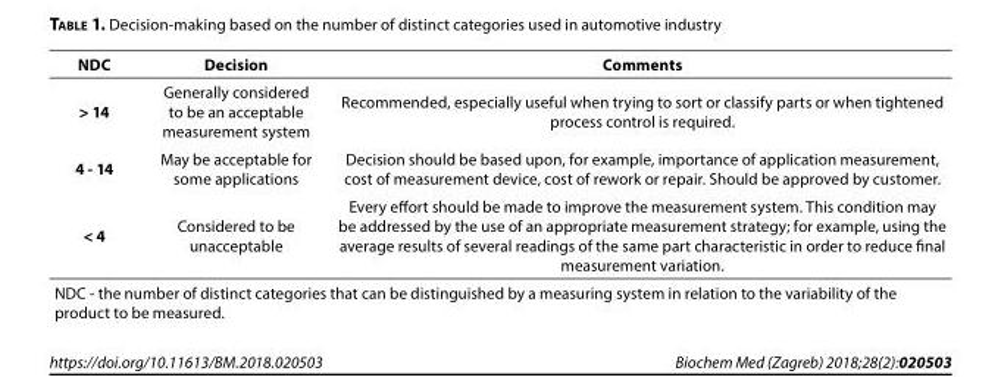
<table><thead><tr><td>NDC</td><td>Decision</td><td>Comments</td></tr></thead><tbody><tr><td>&gt; 14</td><td>Generally considered to be an acceptable measurement system</td><td>Recommended, especially useful when trying to sort or classify parts or when tightened process control is required.</td></tr><tr><td>4 - 14</td><td>May be acceptable for some applications</td><td>Decision should be based upon, for example, importance of application measurement, cost of measurement device, cost of rework or repair. Should be approved by customer.</td></tr><tr><td>&lt; 4</td><td>Considered to be unacceptable</td><td>Every effort should be made to improve the measurement system. This condition may be addressed by the use of an appropriate measurement strategy; for example, using the average results of several readings of the same part characteristic in order to reduce final measurement variation.</td></tr><tr><td colspan="3">NDC - the number of distinct categories that can be distinguished by a measuring system in relation to the variability of the product to be measured.</td></tr></tbody></table>